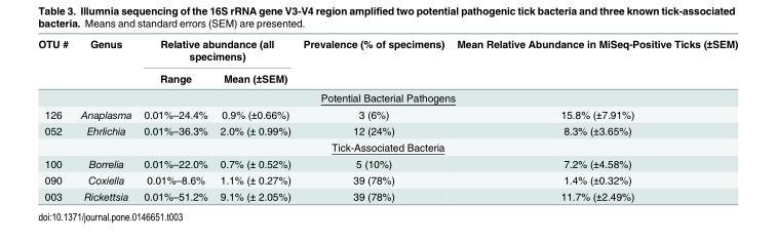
<table><thead><tr><td rowspan="2">OTU #</td><td rowspan="2">Genus</td><td colspan="2">Relative abundance (all specimens)</td><td rowspan="2">Prevalence (% of specimens)</td><td rowspan="2">Mean Relative Abundance in MiSeq-Positive Ticks (±SEM)</td></tr><tr><td>Range</td><td>Mean (±SEM)</td></tr></thead><tbody><tr><td colspan="6">Potential Bacterial Pathogens</td></tr><tr><td>126</td><td>Anaplasma</td><td>0.01%–24.4%</td><td>0.9% (±0.66%)</td><td>3 (6%)</td><td>15.8% (±7.91%)</td></tr><tr><td>052</td><td>Ehrlichia</td><td>0.01%–36.3%</td><td>2.0% (± 0.99%)</td><td>12 (24%)</td><td>8.3% (±3.65%)</td></tr><tr><td colspan="6">Tick-Associated Bacteria</td></tr><tr><td>100</td><td>Borrelia</td><td>0.01%–22.0%</td><td>0.7% (± 0.52%)</td><td>5 (10%)</td><td>7.2% (±4.58%)</td></tr><tr><td>090</td><td>Coxiella</td><td>0.01%–8.6%</td><td>1.1% (± 0.27%)</td><td>39 (78%)</td><td>1.4% (±0.32%)</td></tr><tr><td>003</td><td>Rickettsia</td><td>0.01%–51.2%</td><td>9.1% (± 2.05%)</td><td>39 (78%)</td><td>11.7% (±2.49%)</td></tr></tbody></table>